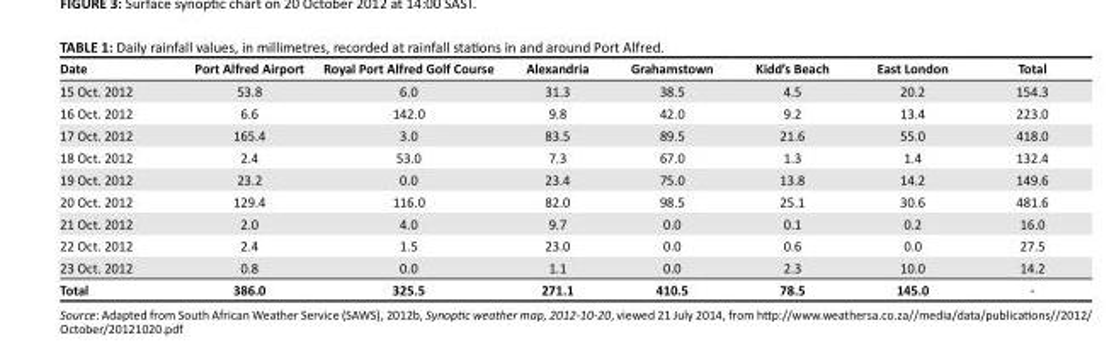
<table><thead><tr><td>Date</td><td>Port Alfred Airport</td><td>Royal Port Alfred Golf Course</td><td>Alexandria</td><td>Grahamstown</td><td>Kidd’s Beach</td><td>East London</td><td>Total</td></tr></thead><tbody><tr><td>15 Oct. 2012</td><td>53.8</td><td>6.0</td><td>31.3</td><td>38.5</td><td>4.5</td><td>20.2</td><td>154.3</td></tr><tr><td>16 Oct. 2012</td><td>6.6</td><td>142.0</td><td>9.8</td><td>42.0</td><td>9.2</td><td>13.4</td><td>223.0</td></tr><tr><td>17 Oct. 2012</td><td>165.4</td><td>3.0</td><td>83.5</td><td>89.5</td><td>21.6</td><td>55.0</td><td>418.0</td></tr><tr><td>18 Oct. 2012</td><td>2.4</td><td>53.0</td><td>7.3</td><td>67.0</td><td>1.3</td><td>1.4</td><td>132.4</td></tr><tr><td>19 Oct. 2012</td><td>23.2</td><td>0.0</td><td>23.4</td><td>75.0</td><td>13.8</td><td>14.2</td><td>149.6</td></tr><tr><td>20 Oct. 2012</td><td>129.4</td><td>116.0</td><td>82.0</td><td>98.5</td><td>25.1</td><td>30.6</td><td>481.6</td></tr><tr><td>21 Oct. 2012</td><td>2.0</td><td>4.0</td><td>9.7</td><td>0.0</td><td>0.1</td><td>0.2</td><td>16.0</td></tr><tr><td>22 Oct. 2012</td><td>2.4</td><td>1.5</td><td>23.0</td><td>0.0</td><td>0.6</td><td>0.0</td><td>27.5</td></tr><tr><td>23 Oct. 2012</td><td>0.8</td><td>0.0</td><td>1.1</td><td>0.0</td><td>2.3</td><td>10.0</td><td>14.2</td></tr><tr><td>Total</td><td>386.0</td><td>325.5</td><td>271.1</td><td>410.5</td><td>78.5</td><td>145.0</td><td>-</td></tr></tbody></table>